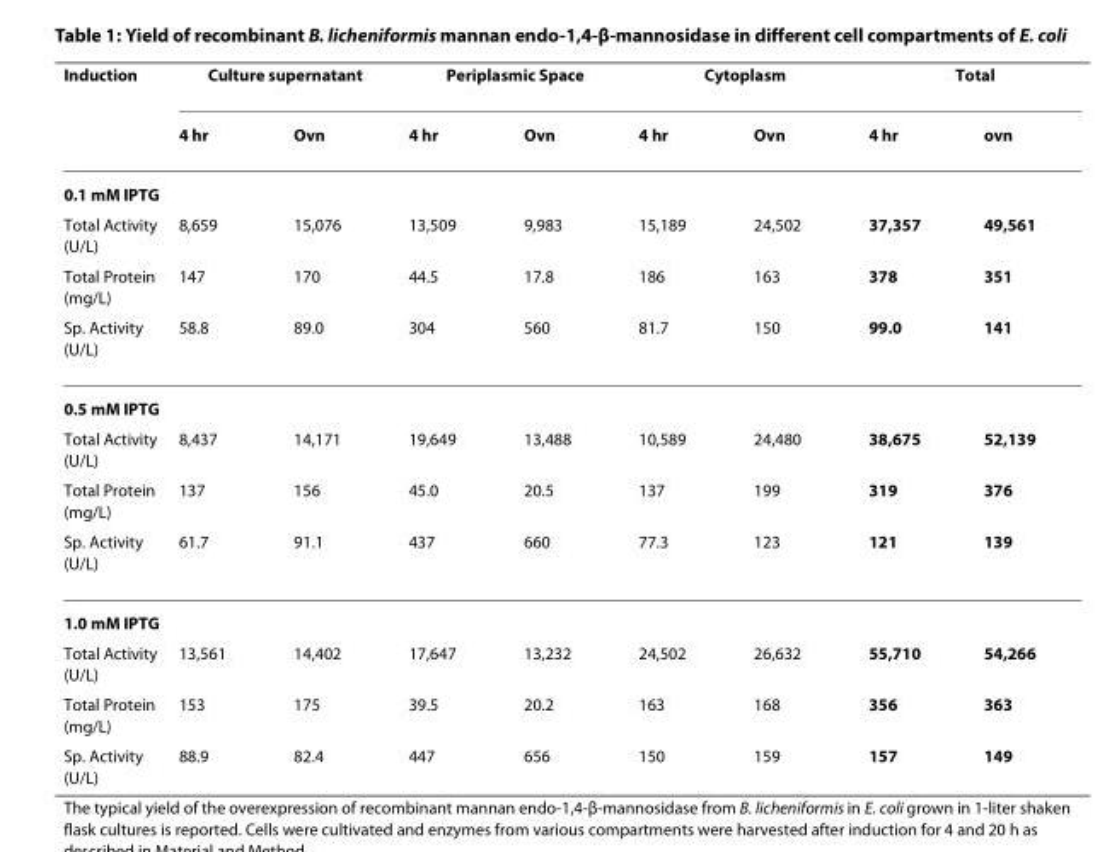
<table><thead><tr><td rowspan="2">Induction</td><td colspan="2">Culture supernatant</td><td colspan="2">Periplasmic Space</td><td colspan="2">Cytoplasm</td><td colspan="2">Total</td></tr><tr><td>4 hr</td><td>Ovn</td><td>4 hr</td><td>Ovn</td><td>4 hr</td><td>Ovn</td><td>4 hr</td><td>ovn</td></tr></thead><tbody><tr><td colspan="9">0.1 mM IPTG</td></tr><tr><td>Total Activity (U/L)</td><td>8,659</td><td>15,076</td><td>13,509</td><td>9,983</td><td>15,189</td><td>24,502</td><td>37,357</td><td>49,561</td></tr><tr><td>Total Protein (mg/L)</td><td>147</td><td>170</td><td>44.5</td><td>17.8</td><td>186</td><td>163</td><td>378</td><td>351</td></tr><tr><td>Sp. Activity (U/L)</td><td>58.8</td><td>89.0</td><td>304</td><td>560</td><td>81.7</td><td>150</td><td>99.0</td><td>141</td></tr><tr><td colspan="9">0.5 mM IPTG</td></tr><tr><td>Total Activity (U/L)</td><td>8,437</td><td>14,171</td><td>19,649</td><td>13,488</td><td>10,589</td><td>24,480</td><td>38,675</td><td>52,139</td></tr><tr><td>Total Protein (mg/L)</td><td>137</td><td>156</td><td>45.0</td><td>20.5</td><td>137</td><td>199</td><td>319</td><td>376</td></tr><tr><td>Sp. Activity (U/L)</td><td>61.7</td><td>91.1</td><td>437</td><td>660</td><td>77.3</td><td>123</td><td>121</td><td>139</td></tr><tr><td colspan="9">1.0 mM IPTG</td></tr><tr><td>Total Activity (U/L)</td><td>13,561</td><td>14,402</td><td>17,647</td><td>13,232</td><td>24,502</td><td>26,632</td><td>55,710</td><td>54,266</td></tr><tr><td>Total Protein (mg/L)</td><td>153</td><td>175</td><td>39.5</td><td>20.2</td><td>163</td><td>168</td><td>356</td><td>363</td></tr><tr><td>Sp. Activity (U/L)</td><td>88.9</td><td>82.4</td><td>447</td><td>656</td><td>150</td><td>159</td><td>157</td><td>149</td></tr></tbody></table>